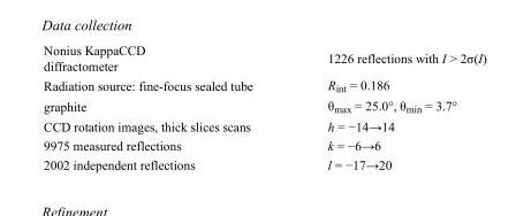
<table><tbody><tr><td>Nonius KappaCCD diffractometer</td><td>1226 reflections with I &gt; 2σ(I)</td></tr><tr><td>Radiation source: fine-focus sealed tube</td><td>R<sub>int</sub> = 0.186</td></tr><tr><td>graphite</td><td>θ<sub>max</sub> = 25.0°, θ<sub>min</sub> = 3.7°</td></tr><tr><td>CCD rotation images, thick slices scans</td><td>h = −14→14</td></tr><tr><td>9975 measured reflections</td><td>k = −6→6</td></tr><tr><td>2002 independent reflections</td><td>l = −17→20</td></tr></tbody></table>